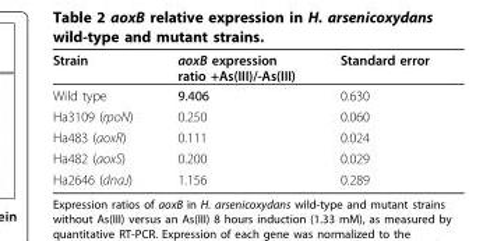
<table><thead><tr><td>Strain</td><td>aoxB expression ratio +As(III)/-As(III)</td><td>Standard error</td></tr></thead><tbody><tr><td>Wild type</td><td>9.406</td><td>0.630</td></tr><tr><td>Ha3109 (rpoN)</td><td>0.250</td><td>0.060</td></tr><tr><td>Ha483 (aoxR)</td><td>0.111</td><td>0.024</td></tr><tr><td>Ha482 (aoxS)</td><td>0.200</td><td>0.029</td></tr><tr><td>Ha2646 (dnaJ)</td><td>1.156</td><td>0.289</td></tr></tbody></table>